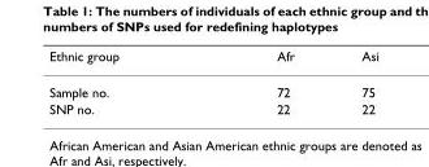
<table><thead><tr><td>Ethnic group</td><td>Afr</td><td>Asi</td></tr></thead><tbody><tr><td>Sample no.</td><td>72</td><td>75</td></tr><tr><td>SNP no.</td><td>22</td><td>22</td></tr></tbody></table>